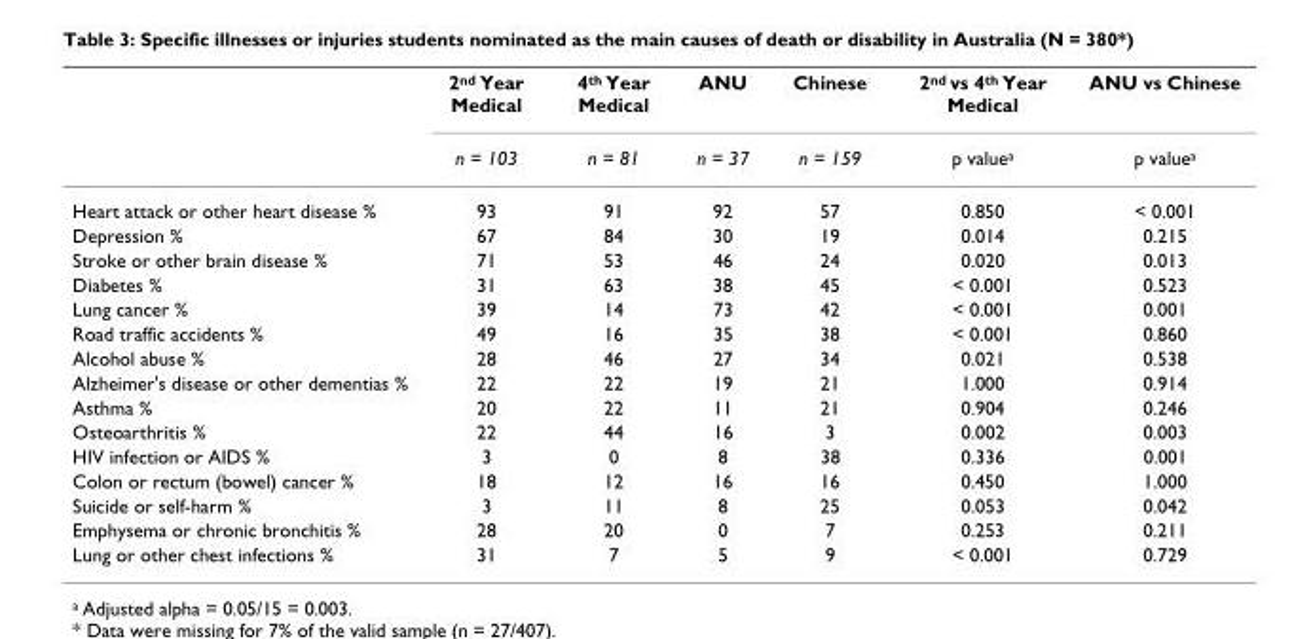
<table><thead><tr><td rowspan="2"></td><td rowspan="2">2<sup>nd</sup> Year Medical n = 103</td><td rowspan="2">4<sup>th</sup> Year Medical n = 81</td><td rowspan="2">ANU n = 37</td><td rowspan="2">Chinese n = 159</td><td rowspan="2">2<sup>nd</sup> vs 4<sup>th</sup> Year Medical p value<sup>a</sup></td><td rowspan="2">ANU vs Chinese p value<sup>a</sup></td></tr><tr></tr></thead><tbody><tr><td>Heart attack or other heart disease %</td><td>93</td><td>91</td><td>92</td><td>57</td><td>0.850</td><td>&lt; 0.001</td></tr><tr><td>Depression %</td><td>67</td><td>84</td><td>30</td><td>19</td><td>0.014</td><td>0.215</td></tr><tr><td>Stroke or other brain disease %</td><td>71</td><td>53</td><td>46</td><td>24</td><td>0.020</td><td>0.013</td></tr><tr><td>Diabetes %</td><td>31</td><td>63</td><td>38</td><td>45</td><td>&lt; 0.001</td><td>0.523</td></tr><tr><td>Lung cancer %</td><td>39</td><td>14</td><td>73</td><td>42</td><td>&lt; 0.001</td><td>0.001</td></tr><tr><td>Road traffic accidents %</td><td>49</td><td>16</td><td>35</td><td>38</td><td>&lt; 0.001</td><td>0.860</td></tr><tr><td>Alcohol abuse %</td><td>28</td><td>46</td><td>27</td><td>34</td><td>0.021</td><td>0.538</td></tr><tr><td>Alzheimer&#x27;s disease or other dementias %</td><td>22</td><td>22</td><td>19</td><td>21</td><td>1.000</td><td>0.914</td></tr><tr><td>Asthma %</td><td>20</td><td>22</td><td>11</td><td>21</td><td>0.904</td><td>0.246</td></tr><tr><td>Osteoarthritis %</td><td>22</td><td>44</td><td>16</td><td>3</td><td>0.002</td><td>0.003</td></tr><tr><td>HIV infection or AIDS %</td><td>3</td><td>0</td><td>8</td><td>38</td><td>0.336</td><td>0.001</td></tr><tr><td>Colon or rectum (bowel) cancer %</td><td>18</td><td>12</td><td>16</td><td>16</td><td>0.450</td><td>1.000</td></tr><tr><td>Suicide or self-harm %</td><td>3</td><td>11</td><td>8</td><td>25</td><td>0.053</td><td>0.042</td></tr><tr><td>Emphysema or chronic bronchitis %</td><td>28</td><td>20</td><td>0</td><td>7</td><td>0.253</td><td>0.211</td></tr><tr><td>Lung or other chest infections %</td><td>31</td><td>7</td><td>5</td><td>9</td><td>&lt; 0.001</td><td>0.729</td></tr></tbody></table>